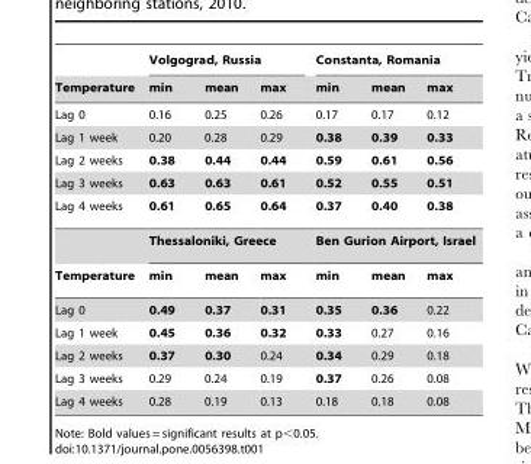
<table><thead><tr><td rowspan="2">Temperature</td><td colspan="3">Volgograd, Russia</td><td colspan="3">Constanta, Romania</td></tr><tr><td>min</td><td>mean</td><td>max</td><td>min</td><td>mean</td><td>max</td></tr></thead><tbody><tr><td>Lag 0</td><td>0.16</td><td>0.25</td><td>0.26</td><td>0.17</td><td>0.17</td><td>0.12</td></tr><tr><td>Lag 1 week</td><td>0.20</td><td>0.28</td><td>0.29</td><td>0.38</td><td>0.39</td><td>0.33</td></tr><tr><td>Lag 2 weeks</td><td>0.38</td><td>0.44</td><td>0.44</td><td>0.59</td><td>0.61</td><td>0.56</td></tr><tr><td>Lag 3 weeks</td><td>0.63</td><td>0.63</td><td>0.61</td><td>0.52</td><td>0.55</td><td>0.51</td></tr><tr><td rowspan="2">Lag 4 weeks</td><td>0.61</td><td>0.65</td><td>0.64</td><td>0.37</td><td>0.40</td><td>0.38</td></tr><tr><td colspan="3">Thessaloniki, Greece</td><td colspan="3">Ben Gurion Airport, Israel</td></tr><tr><td>Temperature</td><td>min</td><td>mean</td><td>max</td><td>min</td><td>mean</td><td>max</td></tr><tr><td>Lag 0</td><td>0.49</td><td>0.37</td><td>0.31</td><td>0.35</td><td>0.36</td><td>0.22</td></tr><tr><td>Lag 1 week</td><td>0.45</td><td>0.36</td><td>0.32</td><td>0.33</td><td>0.27</td><td>0.16</td></tr><tr><td>Lag 2 weeks</td><td>0.37</td><td>0.30</td><td>0.24</td><td>0.34</td><td>0.29</td><td>0.18</td></tr><tr><td>Lag 3 weeks</td><td>0.29</td><td>0.24</td><td>0.19</td><td>0.37</td><td>0.26</td><td>0.08</td></tr><tr><td>Lag 4 weeks</td><td>0.28</td><td>0.19</td><td>0.13</td><td>0.18</td><td>0.18</td><td>0.08</td></tr></tbody></table>